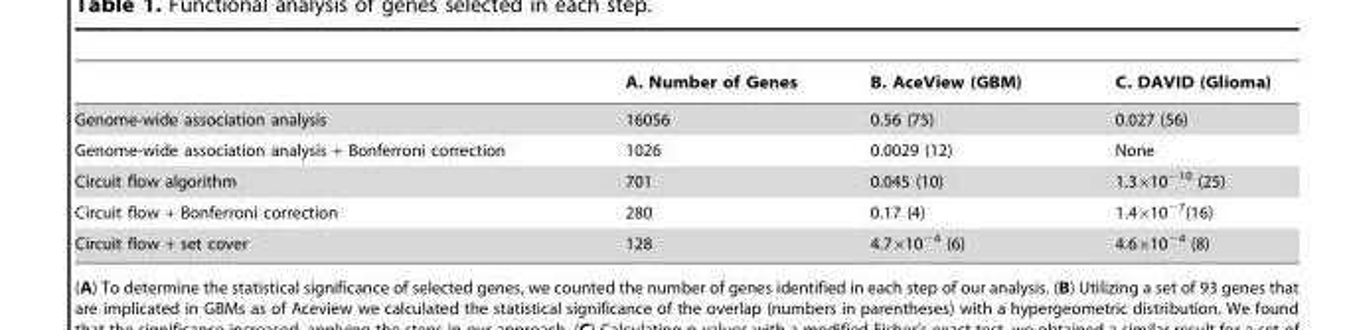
<table><thead><tr><td></td><td>A. Number of Genes</td><td>B. AceView (GBM)</td><td>C. DAVID (Glioma)</td></tr></thead><tbody><tr><td>Genome-wide association analysis</td><td>16056</td><td>0.56 (75)</td><td>0.027 (56)</td></tr><tr><td>Genome-wide association analysis + Bonferroni correction</td><td>1026</td><td>0.0029 (12)</td><td>None</td></tr><tr><td>Circuit flow algorithm</td><td>701</td><td>0.045 (10)</td><td>1.3×10<sup>−10</sup> (25)</td></tr><tr><td>Circuit flow + Bonferroni correction</td><td>280</td><td>0.17 (4)</td><td>1.4×10<sup>−7</sup>(16)</td></tr><tr><td>Circuit flow + set cover</td><td>128</td><td>4.7×10<sup>−4</sup> (6)</td><td>4.6×10<sup>−4</sup> (8)</td></tr></tbody></table>